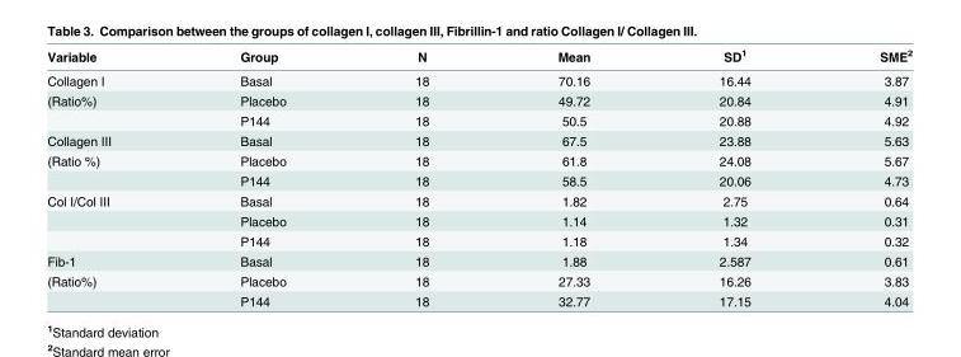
<table><thead><tr><td>Variable</td><td>Group</td><td>N</td><td>Mean</td><td>SD<sup>1</sup></td><td>SME<sup>2</sup></td></tr></thead><tbody><tr><td>Collagen I</td><td>Basal</td><td>18</td><td>70.16</td><td>16.44</td><td>3.87</td></tr><tr><td rowspan="2">(Ratio%)</td><td>Placebo</td><td>18</td><td>49.72</td><td>20.84</td><td>4.91</td></tr><tr><td>P144</td><td>18</td><td>50.5</td><td>20.88</td><td>4.92</td></tr><tr><td>Collagen III</td><td>Basal</td><td>18</td><td>67.5</td><td>23.88</td><td>5.63</td></tr><tr><td rowspan="2">(Ratio %)</td><td>Placebo</td><td>18</td><td>61.8</td><td>24.08</td><td>5.67</td></tr><tr><td>P144</td><td>18</td><td>58.5</td><td>20.06</td><td>4.73</td></tr><tr><td rowspan="3">Col I/Col III</td><td>Basal</td><td>18</td><td>1.82</td><td>2.75</td><td>0.64</td></tr><tr><td>Placebo</td><td>18</td><td>1.14</td><td>1.32</td><td>0.31</td></tr><tr><td>P144</td><td>18</td><td>1.18</td><td>1.34</td><td>0.32</td></tr><tr><td>Fib-1</td><td>Basal</td><td>18</td><td>1.88</td><td>2.587</td><td>0.61</td></tr><tr><td rowspan="2">(Ratio%)</td><td>Placebo</td><td>18</td><td>27.33</td><td>16.26</td><td>3.83</td></tr><tr><td>P144</td><td>18</td><td>32.77</td><td>17.15</td><td>4.04</td></tr></tbody></table>